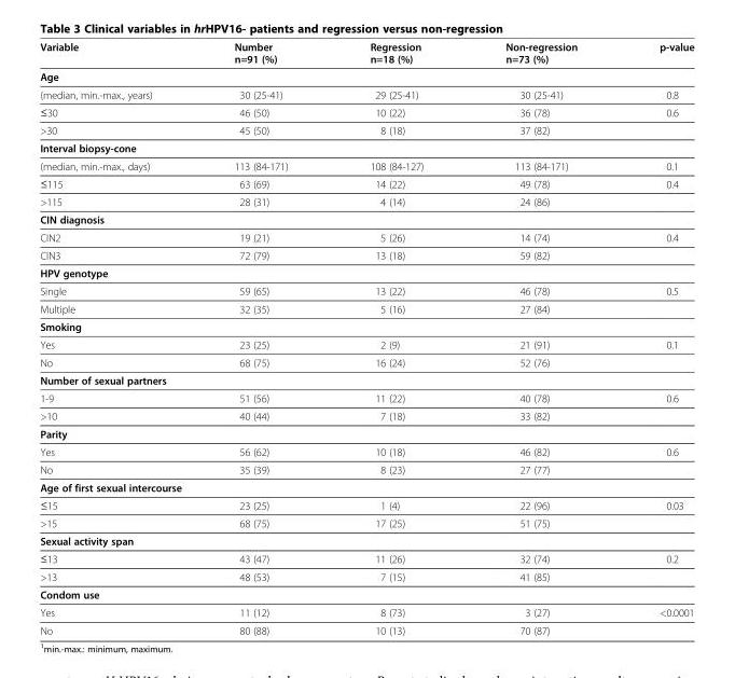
<table><thead><tr><td>Variable</td><td>Number n=91 (%)</td><td>Regression n=18 (%)</td><td>Non-regression n=73 (%)</td><td>p-value</td></tr></thead><tbody><tr><td colspan="5">Age</td></tr><tr><td>(median, min.-max., years)</td><td>30 (25-41)</td><td>29 (25-41)</td><td>30 (25-41)</td><td>0.8</td></tr><tr><td>≤30</td><td>46 (50)</td><td>10 (22)</td><td>36 (78)</td><td>0.6</td></tr><tr><td>&gt;30</td><td>45 (50)</td><td>8 (18)</td><td>37 (82)</td><td></td></tr><tr><td colspan="5">Interval biopsy-cone</td></tr><tr><td>(median, min.-max., days)</td><td>113 (84-171)</td><td>108 (84-127)</td><td>113 (84-171)</td><td>0.1</td></tr><tr><td>≤115</td><td>63 (69)</td><td>14 (22)</td><td>49 (78)</td><td>0.4</td></tr><tr><td>&gt;115</td><td>28 (31)</td><td>4 (14)</td><td>24 (86)</td><td></td></tr><tr><td colspan="5">CIN diagnosis</td></tr><tr><td>CIN2</td><td>19 (21)</td><td>5 (26)</td><td>14 (74)</td><td>0.4</td></tr><tr><td>CIN3</td><td>72 (79)</td><td>13 (18)</td><td>59 (82)</td><td></td></tr><tr><td colspan="5">HPV genotype</td></tr><tr><td>Single</td><td>59 (65)</td><td>13 (22)</td><td>46 (78)</td><td>0.5</td></tr><tr><td>Multiple</td><td>32 (35)</td><td>5 (16)</td><td>27 (84)</td><td></td></tr><tr><td colspan="5">Smoking</td></tr><tr><td>Yes</td><td>23 (25)</td><td>2 (9)</td><td>21 (91)</td><td>0.1</td></tr><tr><td>No</td><td>68 (75)</td><td>16 (24)</td><td>52 (76)</td><td></td></tr><tr><td colspan="5">Number of sexual partners</td></tr><tr><td>1-9</td><td>51 (56)</td><td>11 (22)</td><td>40 (78)</td><td>0.6</td></tr><tr><td>&gt;10</td><td>40 (44)</td><td>7 (18)</td><td>33 (82)</td><td></td></tr><tr><td colspan="5">Parity</td></tr><tr><td>Yes</td><td>56 (62)</td><td>10 (18)</td><td>46 (82)</td><td>0.6</td></tr><tr><td>No</td><td>35 (39)</td><td>8 (23)</td><td>27 (77)</td><td></td></tr><tr><td colspan="5">Age of first sexual intercourse</td></tr><tr><td>≤15</td><td>23 (25)</td><td>1 (4)</td><td>22 (96)</td><td>0.03</td></tr><tr><td>&gt;15</td><td>68 (75)</td><td>17 (25)</td><td>51 (75)</td><td></td></tr><tr><td colspan="5">Sexual activity span</td></tr><tr><td>≤13</td><td>43 (47)</td><td>11 (26)</td><td>32 (74)</td><td>0.2</td></tr><tr><td>&gt;13</td><td>48 (53)</td><td>7 (15)</td><td>41 (85)</td><td></td></tr><tr><td colspan="5">Condom use</td></tr><tr><td>Yes</td><td>11 (12)</td><td>8 (73)</td><td>3 (27)</td><td>&lt;0.0001</td></tr><tr><td>No</td><td>80 (88)</td><td>10 (13)</td><td>70 (87)</td><td></td></tr></tbody></table>